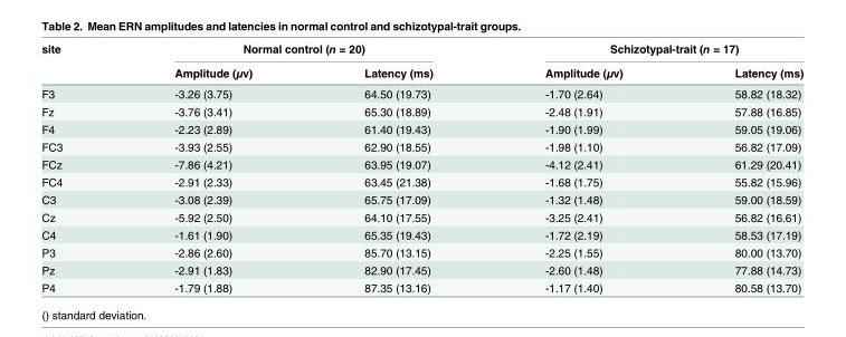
<table><thead><tr><td rowspan="2">site</td><td colspan="2">Normal control (n = 20)</td><td colspan="2">Schizotypal-trait (n = 17)</td></tr><tr><td>Amplitude (μv)</td><td>Latency (ms)</td><td>Amplitude (μv)</td><td>Latency (ms)</td></tr></thead><tbody><tr><td>F3</td><td>-3.26 (3.75)</td><td>64.50 (19.73)</td><td>-1.70 (2.64)</td><td>58.82 (18.32)</td></tr><tr><td>Fz</td><td>-3.76 (3.41)</td><td>65.30 (18.89)</td><td>-2.48 (1.91)</td><td>57.88 (16.85)</td></tr><tr><td>F4</td><td>-2.23 (2.89)</td><td>61.40 (19.43)</td><td>-1.90 (1.99)</td><td>59.05 (19.06)</td></tr><tr><td>FC3</td><td>-3.93 (2.55)</td><td>62.90 (18.55)</td><td>-1.98 (1.10)</td><td>56.82 (17.09)</td></tr><tr><td>FCz</td><td>-7.86 (4.21)</td><td>63.95 (19.07)</td><td>-4.12 (2.41)</td><td>61.29 (20.41)</td></tr><tr><td>FC4</td><td>-2.91 (2.33)</td><td>63.45 (21.38)</td><td>-1.68 (1.75)</td><td>55.82 (15.96)</td></tr><tr><td>C3</td><td>-3.08 (2.39)</td><td>65.75 (17.09)</td><td>-1.32 (1.48)</td><td>59.00 (18.59)</td></tr><tr><td>Cz</td><td>-5.92 (2.50)</td><td>64.10 (17.55)</td><td>-3.25 (2.41)</td><td>56.82 (16.61)</td></tr><tr><td>C4</td><td>-1.61 (1.90)</td><td>65.35 (19.43)</td><td>-1.72 (2.19)</td><td>58.53 (17.19)</td></tr><tr><td>P3</td><td>-2.86 (2.60)</td><td>85.70 (13.15)</td><td>-2.25 (1.55)</td><td>80.00 (13.70)</td></tr><tr><td>Pz</td><td>-2.91 (1.83)</td><td>82.90 (17.45)</td><td>-2.60 (1.48)</td><td>77.88 (14.73)</td></tr><tr><td>P4</td><td>-1.79 (1.88)</td><td>87.35 (13.16)</td><td>-1.17 (1.40)</td><td>80.58 (13.70)</td></tr></tbody></table>